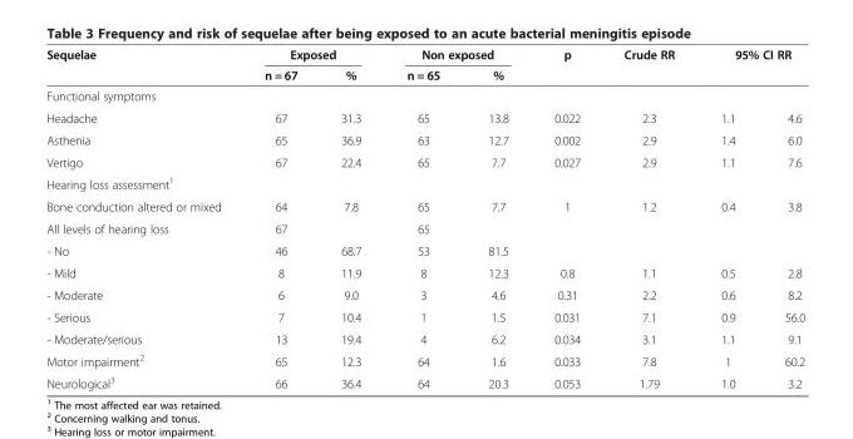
<table><thead><tr><td rowspan="2">Sequelae</td><td colspan="2">Exposed</td><td colspan="2">Non exposed</td><td rowspan="2">p</td><td rowspan="2">Crude RR</td><td colspan="2">95% CI RR</td></tr><tr><td>n = 67</td><td>%</td><td>n = 65</td><td>%</td><td></td><td></td></tr></thead><tbody><tr><td colspan="9">Functional symptoms</td></tr><tr><td>Headache</td><td>67</td><td>31.3</td><td>65</td><td>13.8</td><td>0.022</td><td>2.3</td><td>1.1</td><td>4.6</td></tr><tr><td>Asthenia</td><td>65</td><td>36.9</td><td>63</td><td>12.7</td><td>0.002</td><td>2.9</td><td>1.4</td><td>6.0</td></tr><tr><td>Vertigo</td><td>67</td><td>22.4</td><td>65</td><td>7.7</td><td>0.027</td><td>2.9</td><td>1.1</td><td>7.6</td></tr><tr><td colspan="9">Hearing loss assessment<sup>1</sup></td></tr><tr><td>Bone conduction altered or mixed</td><td>64</td><td>7.8</td><td>65</td><td>7.7</td><td>1</td><td>1.2</td><td>0.4</td><td>3.8</td></tr><tr><td>All levels of hearing loss</td><td>67</td><td></td><td>65</td><td></td><td></td><td></td><td></td><td></td></tr><tr><td>- No</td><td>46</td><td>68.7</td><td>53</td><td>81.5</td><td></td><td></td><td></td><td></td></tr><tr><td>- Mild</td><td>8</td><td>11.9</td><td>8</td><td>12.3</td><td>0.8</td><td>1.1</td><td>0.5</td><td>2.8</td></tr><tr><td>- Moderate</td><td>6</td><td>9.0</td><td>3</td><td>4.6</td><td>0.31</td><td>2.2</td><td>0.6</td><td>8.2</td></tr><tr><td>- Serious</td><td>7</td><td>10.4</td><td>1</td><td>1.5</td><td>0.031</td><td>7.1</td><td>0.9</td><td>56.0</td></tr><tr><td>- Moderate/serious</td><td>13</td><td>19.4</td><td>4</td><td>6.2</td><td>0.034</td><td>3.1</td><td>1.1</td><td>9.1</td></tr><tr><td>Motor impairment<sup>2</sup></td><td>65</td><td>12.3</td><td>64</td><td>1.6</td><td>0.033</td><td>7.8</td><td>1</td><td>60.2</td></tr><tr><td>Neurological<sup>3</sup></td><td>66</td><td>36.4</td><td>64</td><td>20.3</td><td>0.053</td><td>1.79</td><td>1.0</td><td>3.2</td></tr></tbody></table>